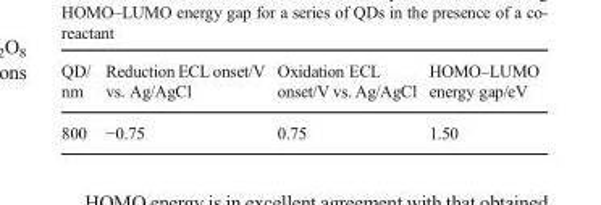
<table><thead><tr><td>QD/ nm</td><td>Reduction ECL onset/V vs. Ag/AgCl</td><td>Oxidation ECL onset/V vs. Ag/AgCl</td><td>HOMO–LUMO energy gap/eV</td></tr></thead><tbody><tr><td>800</td><td>−0.75</td><td>0.75</td><td>1.50</td></tr></tbody></table>